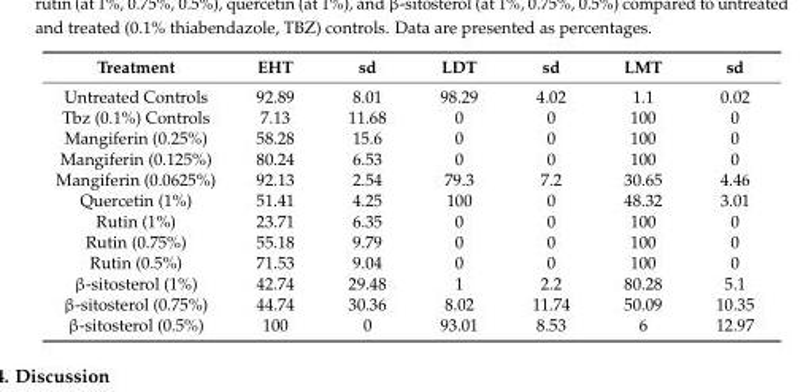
<table><thead><tr><td>Treatment</td><td>EHT</td><td>sd</td><td>LDT</td><td>sd</td><td>LMT</td><td>sd</td></tr></thead><tbody><tr><td>Untreated Controls</td><td>92.89</td><td>8.01</td><td>98.29</td><td>4.02</td><td>1.1</td><td>0.02</td></tr><tr><td>Tbz (0.1%) Controls</td><td>7.13</td><td>11.68</td><td>0</td><td>0</td><td>100</td><td>0</td></tr><tr><td>Mangiferin (0.25%)</td><td>58.28</td><td>15.6</td><td>0</td><td>0</td><td>100</td><td>0</td></tr><tr><td>Mangiferin (0.125%)</td><td>80.24</td><td>6.53</td><td>0</td><td>0</td><td>100</td><td>0</td></tr><tr><td>Mangiferin (0.0625%)</td><td>92.13</td><td>2.54</td><td>79.3</td><td>7.2</td><td>30.65</td><td>4.46</td></tr><tr><td>Quercetin (1%)</td><td>51.41</td><td>4.25</td><td>100</td><td>0</td><td>48.32</td><td>3.01</td></tr><tr><td>Rutin (1%)</td><td>23.71</td><td>6.35</td><td>0</td><td>0</td><td>100</td><td>0</td></tr><tr><td>Rutin (0.75%)</td><td>55.18</td><td>9.79</td><td>0</td><td>0</td><td>100</td><td>0</td></tr><tr><td>Rutin (0.5%)</td><td>71.53</td><td>9.04</td><td>0</td><td>0</td><td>100</td><td>0</td></tr><tr><td>β-sitosterol (1%)</td><td>42.74</td><td>29.48</td><td>1</td><td>2.2</td><td>80.28</td><td>5.1</td></tr><tr><td>β-sitosterol (0.75%)</td><td>44.74</td><td>30.36</td><td>8.02</td><td>11.74</td><td>50.09</td><td>10.35</td></tr><tr><td>β-sitosterol (0.5%)</td><td>100</td><td>0</td><td>93.01</td><td>8.53</td><td>6</td><td>12.97</td></tr></tbody></table>